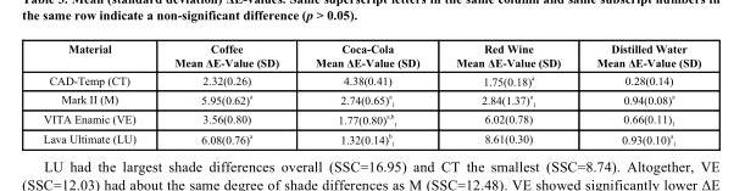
<table><thead><tr><td>Material</td><td>Coffee Mean ΔE-Value (SD)</td><td>Coca-Cola Mean ΔE-Value (SD)</td><td>Red Wine Mean ΔE-Value (SD)</td><td>Distilled Water Mean ΔE-Value (SD)</td></tr></thead><tbody><tr><td>CAD-Temp (CT)</td><td>2.32(0.26)</td><td>4.38(0.41)</td><td>1.75(0.18) <sup>a</sup></td><td>0.28(0.14)</td></tr><tr><td>Mark II (M)</td><td>5.95(0.62) <sup>a</sup></td><td>2.74(0.65) <sup>a</sup> <sub>1</sub></td><td>2.84(1.37) <sup>a</sup> <sub>1</sub></td><td>0.94(0.08) <sup>a</sup></td></tr><tr><td>VITA Enamic (VE)</td><td>3.56(0.80)</td><td>1.77(0.80) <sup>a,b</sup> <sub>1</sub></td><td>6.02(0.78)</td><td>0.66(0.11)<sub>1</sub></td></tr><tr><td>Lava Ultimate (LU)</td><td>6.08(0.76) <sup>a</sup></td><td>1.32(0.14) <sup>b</sup> <sub>1</sub></td><td>8.61(0.30)</td><td>0.93(0.10) <sup>a</sup> <sub>1</sub></td></tr></tbody></table>